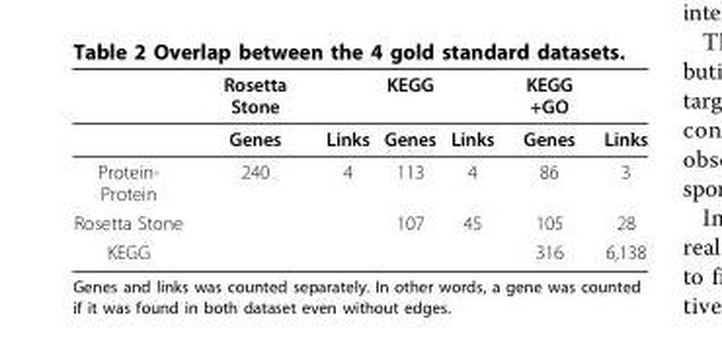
<table><thead><tr><td></td><td>Rosetta Stone</td><td></td><td>KEGG</td><td></td><td>KEGG +GO</td><td></td></tr></thead><tbody><tr><td></td><td>Genes</td><td>Links</td><td>Genes</td><td>Links</td><td>Genes</td><td>Links</td></tr><tr><td>Protein- Protein</td><td>240</td><td>4</td><td>113</td><td>4</td><td>86</td><td>3</td></tr><tr><td>Rosetta Stone</td><td></td><td></td><td>107</td><td>45</td><td>105</td><td>28</td></tr><tr><td>KEGG</td><td></td><td></td><td></td><td></td><td>316</td><td>6,138</td></tr></tbody></table>